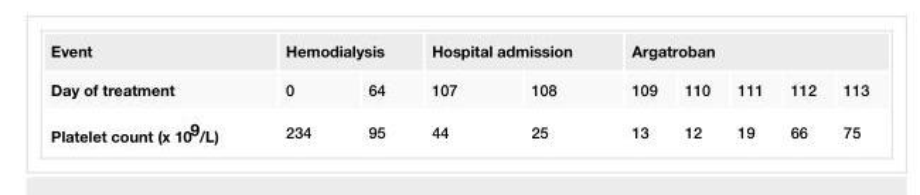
<table><tbody><tr><td>Event</td><td colspan="2">Hemodialysis</td><td colspan="2">Hospital admission</td><td colspan="5">Argatroban</td></tr><tr><td>Day of treatment</td><td>0</td><td>64</td><td>107</td><td>108</td><td>109</td><td>110</td><td>111</td><td>112</td><td>113</td></tr><tr><td>Platelet count (x 10<sup>9</sup>/L)</td><td>234</td><td>95</td><td>44</td><td>25</td><td>13</td><td>12</td><td>19</td><td>66</td><td>75</td></tr></tbody></table>